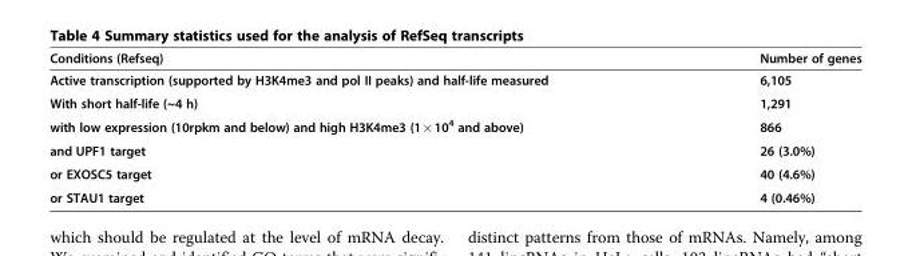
<table><thead><tr><td>Conditions (Refseq)</td><td>Number of genes</td></tr></thead><tbody><tr><td>Active transcription (supported by H3K4me3 and pol II peaks) and half-life measured</td><td>6,105</td></tr><tr><td>With short half-life (~4 h)</td><td>1,291</td></tr><tr><td>with low expression (10rpkm and below) and high H3K4me3 (1 × 10<sup>4</sup> and above)</td><td>866</td></tr><tr><td>and UPF1 target</td><td>26 (3.0%)</td></tr><tr><td>or EXOSC5 target</td><td>40 (4.6%)</td></tr><tr><td>or STAU1 target</td><td>4 (0.46%)</td></tr></tbody></table>